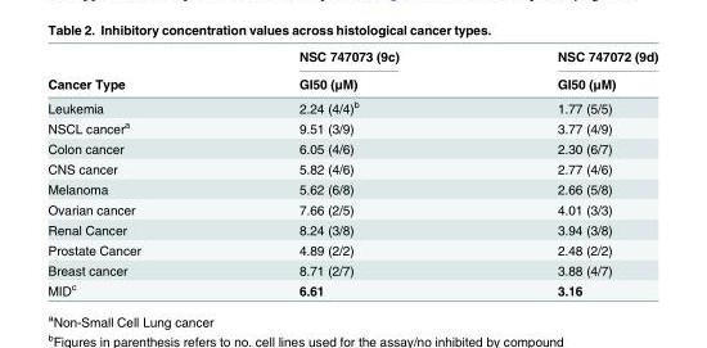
<table><thead><tr><td rowspan="2">Cancer Type</td><td rowspan="2">NSC 747073 (9c) GI50 (μM)</td><td rowspan="2">NSC 747072 (9d) GI50 (μM)</td></tr><tr></tr></thead><tbody><tr><td>Leukemia</td><td>2.24 (4/4)<sup>b</sup></td><td>1.77 (5/5)</td></tr><tr><td>NSCL cancer<sup>a</sup></td><td>9.51 (3/9)</td><td>3.77 (4/9)</td></tr><tr><td>Colon cancer</td><td>6.05 (4/6)</td><td>2.30 (6/7)</td></tr><tr><td>CNS cancer</td><td>5.82 (4/6)</td><td>2.77 (4/6)</td></tr><tr><td>Melanoma</td><td>5.62 (6/8)</td><td>2.66 (5/8)</td></tr><tr><td>Ovarian cancer</td><td>7.66 (2/5)</td><td>4.01 (3/3)</td></tr><tr><td>Renal Cancer</td><td>8.24 (3/8)</td><td>3.94 (3/8)</td></tr><tr><td>Prostate Cancer</td><td>4.89 (2/2)</td><td>2.48 (2/2)</td></tr><tr><td>Breast cancer</td><td>8.71 (2/7)</td><td>3.88 (4/7)</td></tr><tr><td>MID<sup>c</sup></td><td>6.61</td><td>3.16</td></tr></tbody></table>